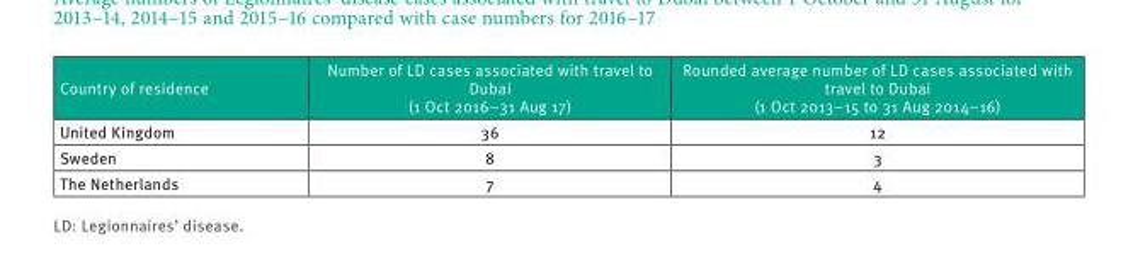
<table><thead><tr><td>Country of residence</td><td>Number of LD cases associated with travel to Dubai (1 Oct 2016−31 Aug 17)</td><td>Rounded average number of LD cases associated with travel to Dubai (1 Oct 2013−15 to 31 Aug 2014−16)</td></tr></thead><tbody><tr><td>United Kingdom</td><td>36</td><td>12</td></tr><tr><td>Sweden</td><td>8</td><td>3</td></tr><tr><td>The Netherlands</td><td>7</td><td>4</td></tr></tbody></table>